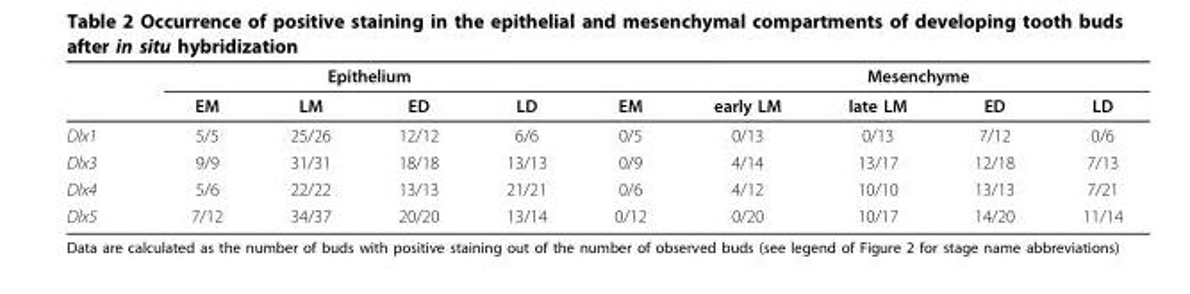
<table><thead><tr><td rowspan="2"></td><td colspan="4">Epithelium</td><td rowspan="2">EM</td><td colspan="4">Mesenchyme</td></tr><tr><td>EM</td><td>LM</td><td>ED</td><td>LD</td><td>early LM</td><td>late LM</td><td>ED</td><td>LD</td></tr></thead><tbody><tr><td>Dlx1</td><td>5/5</td><td>25/26</td><td>12/12</td><td>6/6</td><td>0/5</td><td>0/13</td><td>0/13</td><td>7/12</td><td>0/6</td></tr><tr><td>Dlx3</td><td>9/9</td><td>31/31</td><td>18/18</td><td>13/13</td><td>0/9</td><td>4/14</td><td>13/17</td><td>12/18</td><td>7/13</td></tr><tr><td>Dlx4</td><td>5/6</td><td>22/22</td><td>13/13</td><td>21/21</td><td>0/6</td><td>4/12</td><td>10/10</td><td>13/13</td><td>7/21</td></tr><tr><td>Dlx5</td><td>7/12</td><td>34/37</td><td>20/20</td><td>13/14</td><td>0/12</td><td>0/20</td><td>10/17</td><td>14/20</td><td>11/14</td></tr></tbody></table>